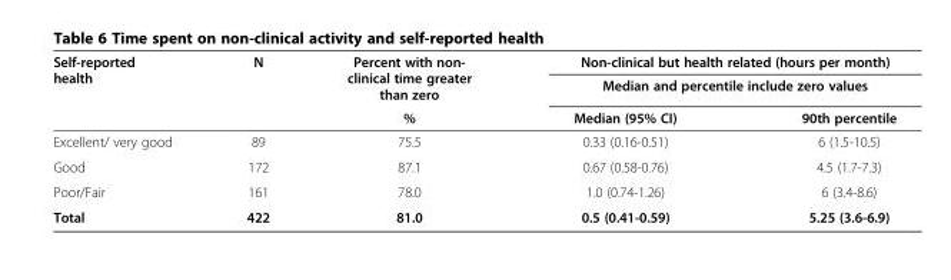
<table><thead><tr><td rowspan="3">Self-reported health</td><td rowspan="3">N</td><td rowspan="3">Percent with non- clinical time greater than zero %</td><td rowspan="2" colspan="2">Non-clinical but health related (hours per month) Median and percentile include zero values</td></tr><tr></tr><tr><td>Median (95% CI)</td><td>90th percentile</td></tr></thead><tbody><tr><td>Excellent/ very good</td><td>89</td><td>75.5</td><td>0.33 (0.16-0.51)</td><td>6 (1.5-10.5)</td></tr><tr><td>Good</td><td>172</td><td>87.1</td><td>0.67 (0.58-0.76)</td><td>4.5 (1.7-7.3)</td></tr><tr><td>Poor/Fair</td><td>161</td><td>78.0</td><td>1.0 (0.74-1.26)</td><td>6 (3.4-8.6)</td></tr><tr><td>Total</td><td>422</td><td>81.0</td><td>0.5 (0.41-0.59)</td><td>5.25 (3.6-6.9)</td></tr></tbody></table>